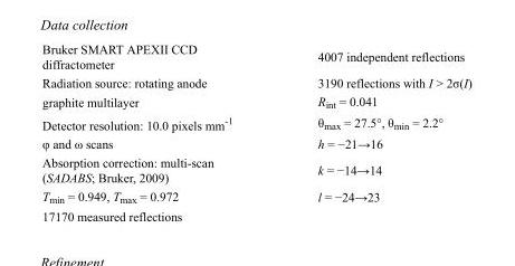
<table><tbody><tr><td>Bruker SMART APEXII CCD diffractometer</td><td>4007 independent reflections</td></tr><tr><td>Radiation source: rotating anode</td><td>3190 reflections with I &gt; 2σ(I)</td></tr><tr><td>graphite multilayer</td><td>R<sub>int</sub> = 0.041</td></tr><tr><td>Detector resolution: 10.0 pixels mm<sup>-1</sup></td><td>θ<sub>max</sub> = 27.5°, θ<sub>min</sub> = 2.2°</td></tr><tr><td>φ and ω scans</td><td>h = −21→16</td></tr><tr><td>Absorption correction: multi-scan (SADABS; Bruker, 2009)</td><td>k = −14→14</td></tr><tr><td>T<sub>min</sub> = 0.949, T<sub>max</sub> = 0.972</td><td>l = −24→23</td></tr><tr><td>17170 measured reflections</td><td></td></tr></tbody></table>